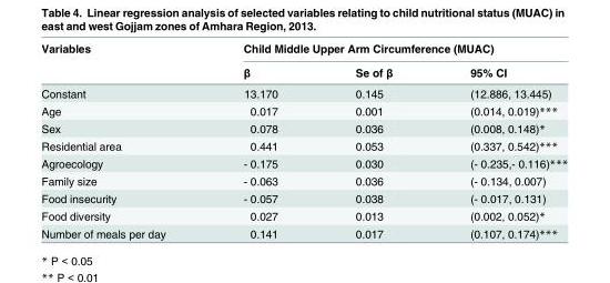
<table><thead><tr><td rowspan="2">Variables</td><td colspan="3">Child Middle Upper Arm Circumference (MUAC)</td></tr><tr><td>β</td><td>Se of β</td><td>95% CI</td></tr></thead><tbody><tr><td>Constant</td><td>13.170</td><td>0.145</td><td>(12.886, 13.445)</td></tr><tr><td>Age</td><td>0.017</td><td>0.001</td><td>(0.014, 0.019)***</td></tr><tr><td>Sex</td><td>0.078</td><td>0.036</td><td>(0.008, 0.148)*</td></tr><tr><td>Residential area</td><td>0.441</td><td>0.053</td><td>(0.337, 0.542)***</td></tr><tr><td>Agroecology</td><td>- 0.175</td><td>0.030</td><td>(- 0.235,- 0.116)***</td></tr><tr><td>Family size</td><td>- 0.063</td><td>0.036</td><td>(- 0.134, 0.007)</td></tr><tr><td>Food insecurity</td><td>- 0.057</td><td>0.038</td><td>(- 0.017, 0.131)</td></tr><tr><td>Food diversity</td><td>0.027</td><td>0.013</td><td>(0.002, 0.052)*</td></tr><tr><td>Number of meals per day</td><td>0.141</td><td>0.017</td><td>(0.107, 0.174)***</td></tr></tbody></table>